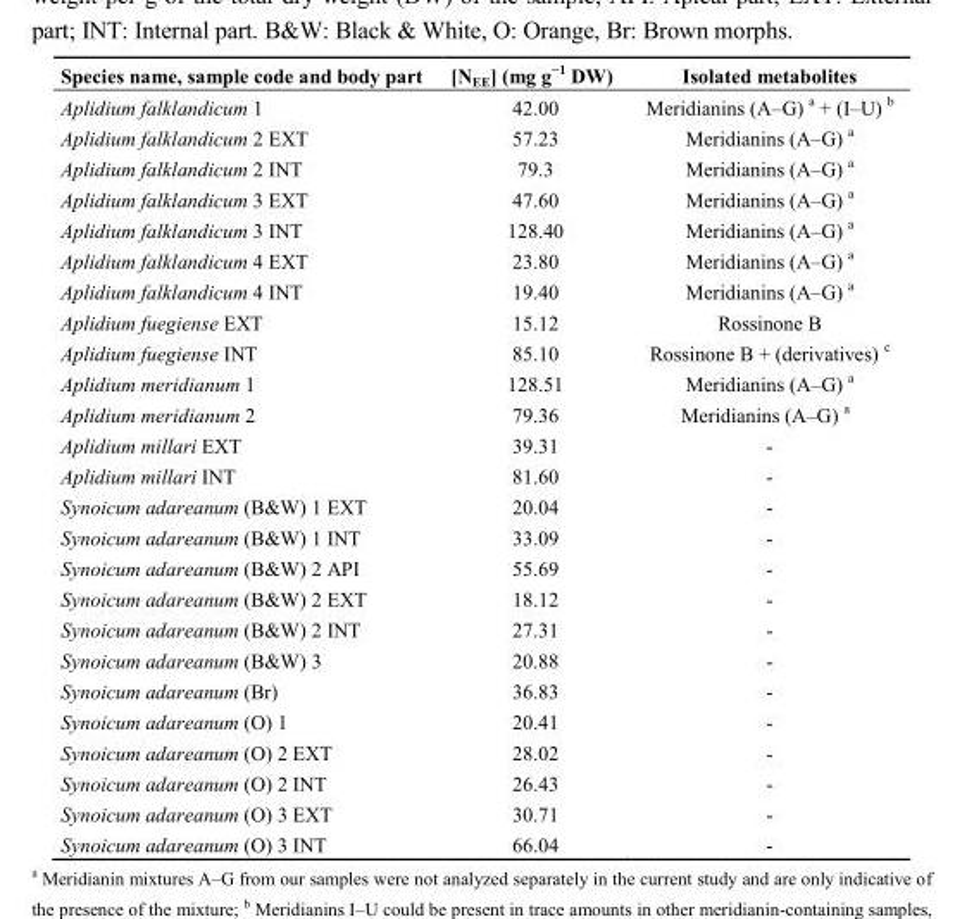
<table><thead><tr><td>Species name, sample code and body part</td><td>[N<sub>EE</sub>] (mg g<sup>−1</sup> DW)</td><td>Isolated metabolites</td></tr></thead><tbody><tr><td>Aplidium falklandicum 1</td><td>42.00</td><td>Meridianins (A–G) <sup>a</sup> + (I–U) <sup>b</sup></td></tr><tr><td>Aplidium falklandicum 2 EXT</td><td>57.23</td><td>Meridianins (A–G) <sup>a</sup></td></tr><tr><td>Aplidium falklandicum 2 INT</td><td>79.3</td><td>Meridianins (A–G) <sup>a</sup></td></tr><tr><td>Aplidium falklandicum 3 EXT</td><td>47.60</td><td>Meridianins (A–G) <sup>a</sup></td></tr><tr><td>Aplidium falklandicum 3 INT</td><td>128.40</td><td>Meridianins (A–G) <sup>a</sup></td></tr><tr><td>Aplidium falklandicum 4 EXT</td><td>23.80</td><td>Meridianins (A–G) <sup>a</sup></td></tr><tr><td>Aplidium falklandicum 4 INT</td><td>19.40</td><td>Meridianins (A–G) <sup>a</sup></td></tr><tr><td>Aplidium fuegiense EXT</td><td>15.12</td><td>Rossinone B</td></tr><tr><td>Aplidium fuegiense INT</td><td>85.10</td><td>Rossinone B + (derivatives) <sup>c</sup></td></tr><tr><td>Aplidium meridianum 1</td><td>128.51</td><td>Meridianins (A–G) <sup>a</sup></td></tr><tr><td>Aplidium meridianum 2</td><td>79.36</td><td>Meridianins (A–G) <sup>a</sup></td></tr><tr><td>Aplidium millari EXT</td><td>39.31</td><td>-</td></tr><tr><td>Aplidium millari INT</td><td>81.60</td><td>-</td></tr><tr><td>Synoicum adareanum (B&amp;W) 1 EXT</td><td>20.04</td><td>-</td></tr><tr><td>Synoicum adareanum (B&amp;W) 1 INT</td><td>33.09</td><td>-</td></tr><tr><td>Synoicum adareanum (B&amp;W) 2 API</td><td>55.69</td><td>-</td></tr><tr><td>Synoicum adareanum (B&amp;W) 2 EXT</td><td>18.12</td><td>-</td></tr><tr><td>Synoicum adareanum (B&amp;W) 2 INT</td><td>27.31</td><td>-</td></tr><tr><td>Synoicum adareanum (B&amp;W) 3</td><td>20.88</td><td>-</td></tr><tr><td>Synoicum adareanum (Br)</td><td>36.83</td><td>-</td></tr><tr><td>Synoicum adareanum (O) 1</td><td>20.41</td><td>-</td></tr><tr><td>Synoicum adareanum (O) 2 EXT</td><td>28.02</td><td>-</td></tr><tr><td>Synoicum adareanum (O) 2 INT</td><td>26.43</td><td>-</td></tr><tr><td>Synoicum adareanum (O) 3 EXT</td><td>30.71</td><td>-</td></tr><tr><td>Synoicum adareanum (O) 3 INT</td><td>66.04</td><td>-</td></tr></tbody></table>